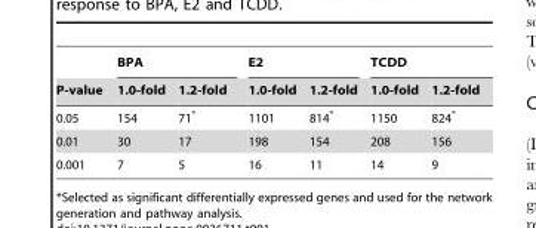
<table><thead><tr><td rowspan="2">P-value</td><td colspan="2">BPA</td><td colspan="2">E2</td><td colspan="2">TCDD</td></tr><tr><td>1.0-fold</td><td>1.2-fold</td><td>1.0-fold</td><td>1.2-fold</td><td>1.0-fold</td><td>1.2-fold</td></tr></thead><tbody><tr><td>0.05</td><td>154</td><td>71*</td><td>1101</td><td>814*</td><td>1150</td><td>824*</td></tr><tr><td>0.01</td><td>30</td><td>17</td><td>198</td><td>154</td><td>208</td><td>156</td></tr><tr><td>0.001</td><td>7</td><td>5</td><td>16</td><td>11</td><td>14</td><td>9</td></tr></tbody></table>